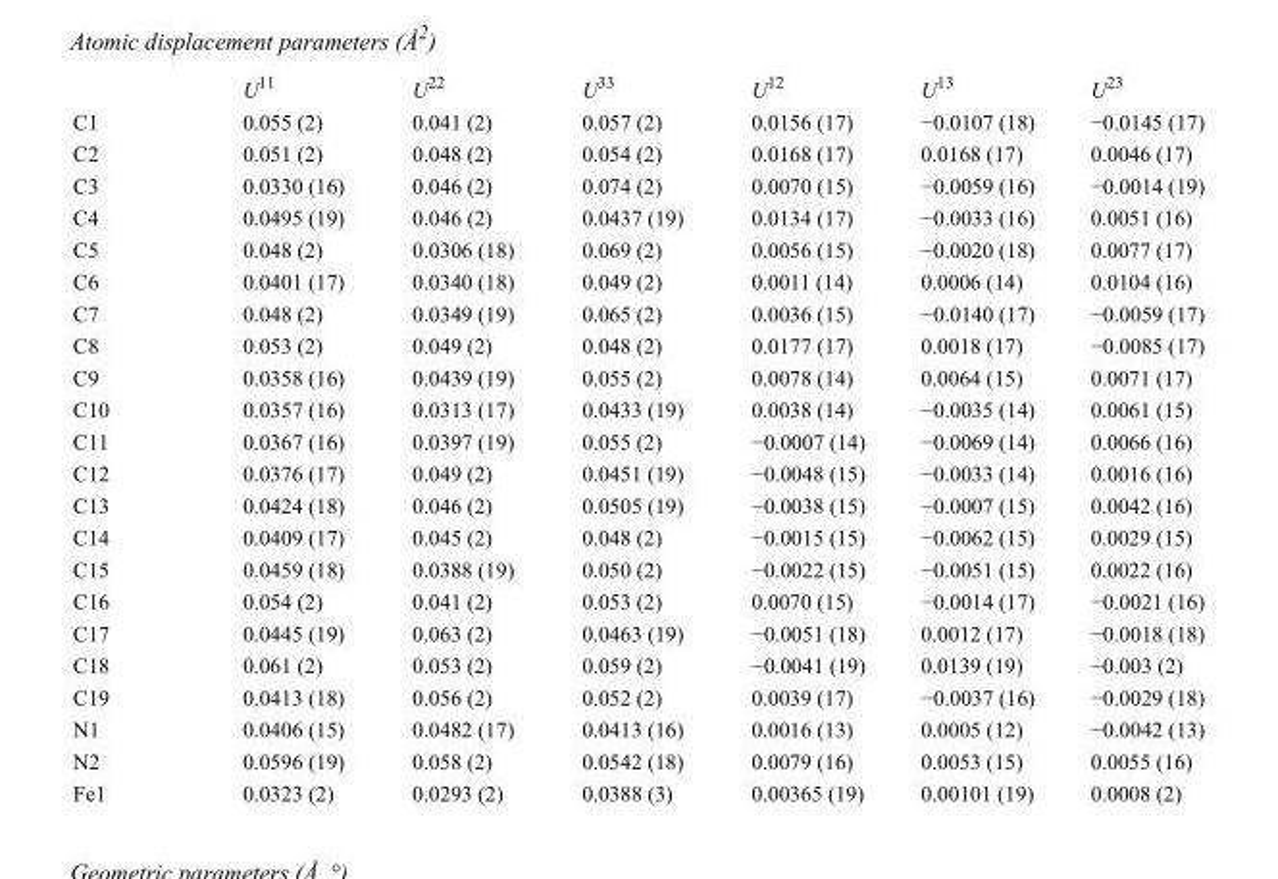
<table><thead><tr><td></td><td>U<sup>11</sup></td><td>U<sup>22</sup></td><td>U<sup>33</sup></td><td>U<sup>12</sup></td><td>U<sup>13</sup></td><td>U<sup>23</sup></td></tr></thead><tbody><tr><td>C1</td><td>0.055 (2)</td><td>0.041 (2)</td><td>0.057 (2)</td><td>0.0156 (17)</td><td>−0.0107 (18)</td><td>−0.0145 (17)</td></tr><tr><td>C2</td><td>0.051 (2)</td><td>0.048 (2)</td><td>0.054 (2)</td><td>0.0168 (17)</td><td>0.0168 (17)</td><td>0.0046 (17)</td></tr><tr><td>C3</td><td>0.0330 (16)</td><td>0.046 (2)</td><td>0.074 (2)</td><td>0.0070 (15)</td><td>−0.0059 (16)</td><td>−0.0014 (19)</td></tr><tr><td>C4</td><td>0.0495 (19)</td><td>0.046 (2)</td><td>0.0437 (19)</td><td>0.0134 (17)</td><td>−0.0033 (16)</td><td>0.0051 (16)</td></tr><tr><td>C5</td><td>0.048 (2)</td><td>0.0306 (18)</td><td>0.069 (2)</td><td>0.0056 (15)</td><td>−0.0020 (18)</td><td>0.0077 (17)</td></tr><tr><td>C6</td><td>0.0401 (17)</td><td>0.0340 (18)</td><td>0.049 (2)</td><td>0.0011 (14)</td><td>0.0006 (14)</td><td>0.0104 (16)</td></tr><tr><td>C7</td><td>0.048 (2)</td><td>0.0349 (19)</td><td>0.065 (2)</td><td>0.0036 (15)</td><td>−0.0140 (17)</td><td>−0.0059 (17)</td></tr><tr><td>C8</td><td>0.053 (2)</td><td>0.049 (2)</td><td>0.048 (2)</td><td>0.0177 (17)</td><td>0.0018 (17)</td><td>−0.0085 (17)</td></tr><tr><td>C9</td><td>0.0358 (16)</td><td>0.0439 (19)</td><td>0.055 (2)</td><td>0.0078 (14)</td><td>0.0064 (15)</td><td>0.0071 (17)</td></tr><tr><td>C10</td><td>0.0357 (16)</td><td>0.0313 (17)</td><td>0.0433 (19)</td><td>0.0038 (14)</td><td>−0.0035 (14)</td><td>0.0061 (15)</td></tr><tr><td>C11</td><td>0.0367 (16)</td><td>0.0397 (19)</td><td>0.055 (2)</td><td>−0.0007 (14)</td><td>−0.0069 (14)</td><td>0.0066 (16)</td></tr><tr><td>C12</td><td>0.0376 (17)</td><td>0.049 (2)</td><td>0.0451 (19)</td><td>−0.0048 (15)</td><td>−0.0033 (14)</td><td>0.0016 (16)</td></tr><tr><td>C13</td><td>0.0424 (18)</td><td>0.046 (2)</td><td>0.0505 (19)</td><td>−0.0038 (15)</td><td>−0.0007 (15)</td><td>0.0042 (16)</td></tr><tr><td>C14</td><td>0.0409 (17)</td><td>0.045 (2)</td><td>0.048 (2)</td><td>−0.0015 (15)</td><td>−0.0062 (15)</td><td>0.0029 (15)</td></tr><tr><td>C15</td><td>0.0459 (18)</td><td>0.0388 (19)</td><td>0.050 (2)</td><td>−0.0022 (15)</td><td>−0.0051 (15)</td><td>0.0022 (16)</td></tr><tr><td>C16</td><td>0.054 (2)</td><td>0.041 (2)</td><td>0.053 (2)</td><td>0.0070 (15)</td><td>−0.0014 (17)</td><td>−0.0021 (16)</td></tr><tr><td>C17</td><td>0.0445 (19)</td><td>0.063 (2)</td><td>0.0463 (19)</td><td>−0.0051 (18)</td><td>0.0012 (17)</td><td>−0.0018 (18)</td></tr><tr><td>C18</td><td>0.061 (2)</td><td>0.053 (2)</td><td>0.059 (2)</td><td>−0.0041 (19)</td><td>0.0139 (19)</td><td>−0.003 (2)</td></tr><tr><td>C19</td><td>0.0413 (18)</td><td>0.056 (2)</td><td>0.052 (2)</td><td>0.0039 (17)</td><td>−0.0037 (16)</td><td>−0.0029 (18)</td></tr><tr><td>N1</td><td>0.0406 (15)</td><td>0.0482 (17)</td><td>0.0413 (16)</td><td>0.0016 (13)</td><td>0.0005 (12)</td><td>−0.0042 (13)</td></tr><tr><td>N2</td><td>0.0596 (19)</td><td>0.058 (2)</td><td>0.0542 (18)</td><td>0.0079 (16)</td><td>0.0053 (15)</td><td>0.0055 (16)</td></tr><tr><td>Fe1</td><td>0.0323 (2)</td><td>0.0293 (2)</td><td>0.0388 (3)</td><td>0.00365 (19)</td><td>0.00101 (19)</td><td>0.0008 (2)</td></tr></tbody></table>